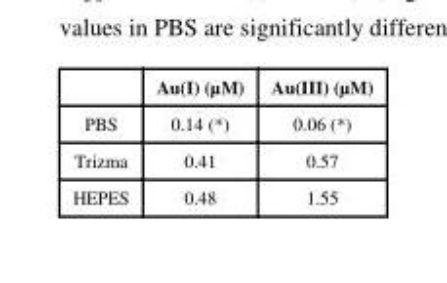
<table><thead><tr><td></td><td>Au(I) (µM)</td><td>Au(III) (µM)</td></tr></thead><tbody><tr><td>PBS</td><td>0.14 (*)</td><td>0.06 (*)</td></tr><tr><td>Trizma</td><td>0.41</td><td>0.57</td></tr><tr><td>HEPES</td><td>0.48</td><td>1.55</td></tr></tbody></table>